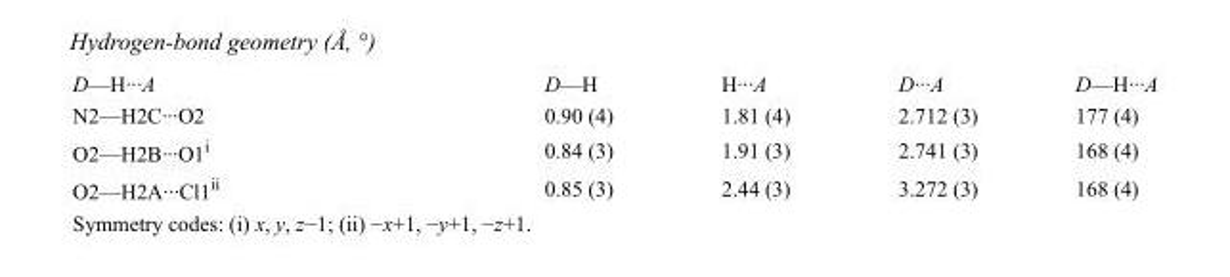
<table><tbody><tr><td>D—H···A</td><td>D—H</td><td>H···A</td><td>D···A</td><td>D—H···A</td></tr><tr><td>N2—H2C···O2</td><td>0.90 (4)</td><td>1.81 (4)</td><td>2.712 (3)</td><td>177 (4)</td></tr><tr><td>O2—H2B···O1<sup>i</sup></td><td>0.84 (3)</td><td>1.91 (3)</td><td>2.741 (3)</td><td>168 (4)</td></tr><tr><td>O2—H2A···Cl1<sup>ii</sup></td><td>0.85 (3)</td><td>2.44 (3)</td><td>3.272 (3)</td><td>168 (4)</td></tr></tbody></table>